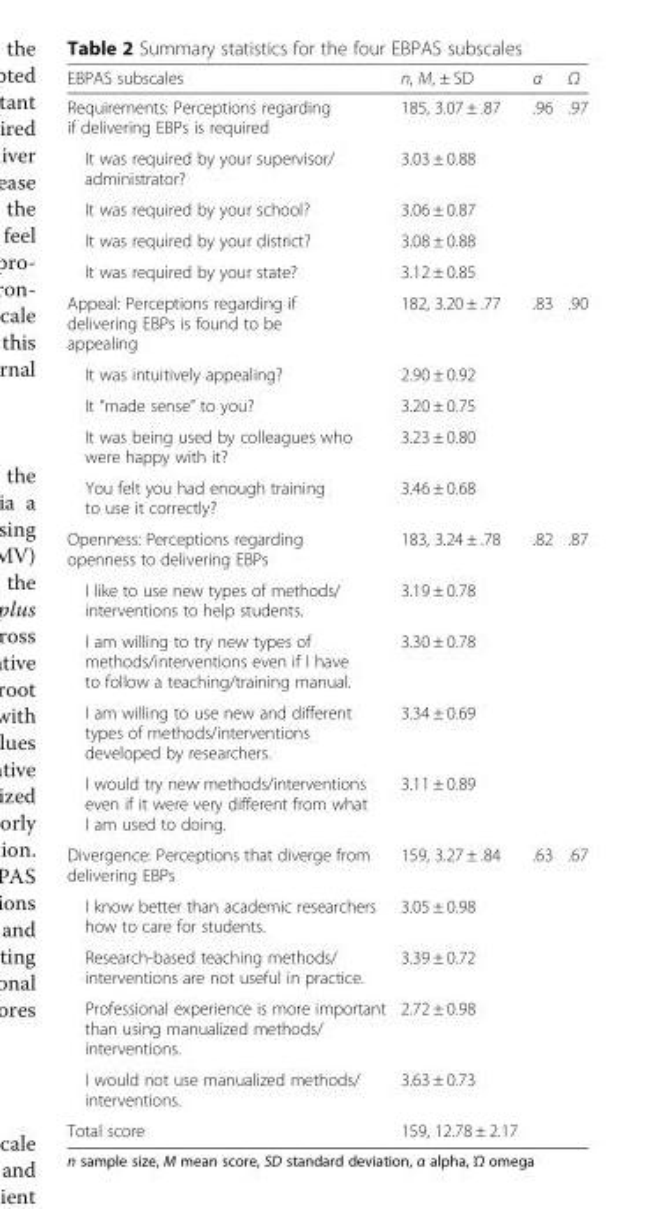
<table><thead><tr><td>EBPAS subscales</td><td>n, M, ± SD</td><td>α</td><td>Ω</td></tr></thead><tbody><tr><td>Requirements: Perceptions regarding if delivering EBPs is required</td><td>185, 3.07 ± .87</td><td>.96</td><td>.97</td></tr><tr><td>It was required by your supervisor/ administrator?</td><td>3.03 ± 0.88</td><td></td><td></td></tr><tr><td>It was required by your school?</td><td>3.06 ± 0.87</td><td></td><td></td></tr><tr><td>It was required by your district?</td><td>3.08 ± 0.88</td><td></td><td></td></tr><tr><td>It was required by your state?</td><td>3.12 ± 0.85</td><td></td><td></td></tr><tr><td>Appeal: Perceptions regarding if delivering EBPs is found to be appealing</td><td>182, 3.20 ± .77</td><td>.83</td><td>.90</td></tr><tr><td>It was intuitively appealing?</td><td>2.90 ± 0.92</td><td></td><td></td></tr><tr><td>It “made sense” to you?</td><td>3.20 ± 0.75</td><td></td><td></td></tr><tr><td>It was being used by colleagues who were happy with it?</td><td>3.23 ± 0.80</td><td></td><td></td></tr><tr><td>You felt you had enough training to use it correctly?</td><td>3.46 ± 0.68</td><td></td><td></td></tr><tr><td>Openness: Perceptions regarding openness to delivering EBPs</td><td>183, 3.24 ± .78</td><td>.82</td><td>.87</td></tr><tr><td>I like to use new types of methods/ interventions to help students.</td><td>3.19 ± 0.78</td><td></td><td></td></tr><tr><td>I am willing to try new types of methods/interventions even if I have to follow a teaching/training manual.</td><td>3.30 ± 0.78</td><td></td><td></td></tr><tr><td>I am willing to use new and different types of methods/interventions developed by researchers.</td><td>3.34 ± 0.69</td><td></td><td></td></tr><tr><td>I would try new methods/interventions even if it were very different from what I am used to doing.</td><td>3.11 ± 0.89</td><td></td><td></td></tr><tr><td>Divergence: Perceptions that diverge from delivering EBPs</td><td>159, 3.27 ± .84</td><td>.63</td><td>.67</td></tr><tr><td>I know better than academic researchers how to care for students.</td><td>3.05 ± 0.98</td><td></td><td></td></tr><tr><td>Research-based teaching methods/ interventions are not useful in practice.</td><td>3.39 ± 0.72</td><td></td><td></td></tr><tr><td>Professional experience is more important than using manualized methods/ interventions.</td><td>2.72 ± 0.98</td><td></td><td></td></tr><tr><td>I would not use manualized methods/ interventions.</td><td>3.63 ± 0.73</td><td></td><td></td></tr><tr><td>Total score</td><td>159, 12.78 ± 2.17</td><td></td><td></td></tr></tbody></table>